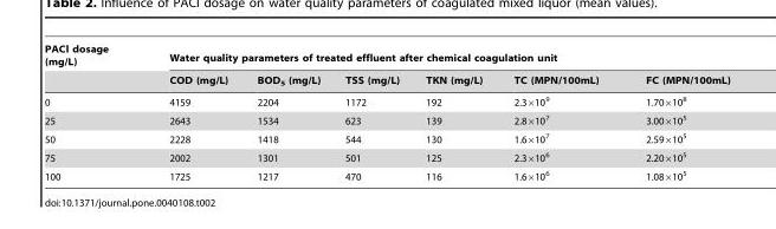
<table><thead><tr><td rowspan="2">PACl dosage (mg/L)</td><td colspan="6">Water quality parameters of treated effluent after chemical coagulation unit</td></tr><tr><td>COD (mg/L)</td><td>BOD<sub>5</sub> (mg/L)</td><td>TSS (mg/L)</td><td>TKN (mg/L)</td><td>TC (MPN/100mL)</td><td>FC (MPN/100mL)</td></tr></thead><tbody><tr><td>0</td><td>4159</td><td>2204</td><td>1172</td><td>192</td><td>2.3×10<sup>9</sup></td><td>1.70×10<sup>8</sup></td></tr><tr><td>25</td><td>2643</td><td>1534</td><td>623</td><td>139</td><td>2.8×10<sup>7</sup></td><td>3.00×10<sup>5</sup></td></tr><tr><td>50</td><td>2228</td><td>1418</td><td>544</td><td>130</td><td>1.6×10<sup>7</sup></td><td>2.59×10<sup>5</sup></td></tr><tr><td>75</td><td>2002</td><td>1301</td><td>501</td><td>125</td><td>2.3×10<sup>6</sup></td><td>2.20×10<sup>5</sup></td></tr><tr><td>100</td><td>1725</td><td>1217</td><td>470</td><td>116</td><td>1.6×10<sup>6</sup></td><td>1.08×10<sup>5</sup></td></tr></tbody></table>